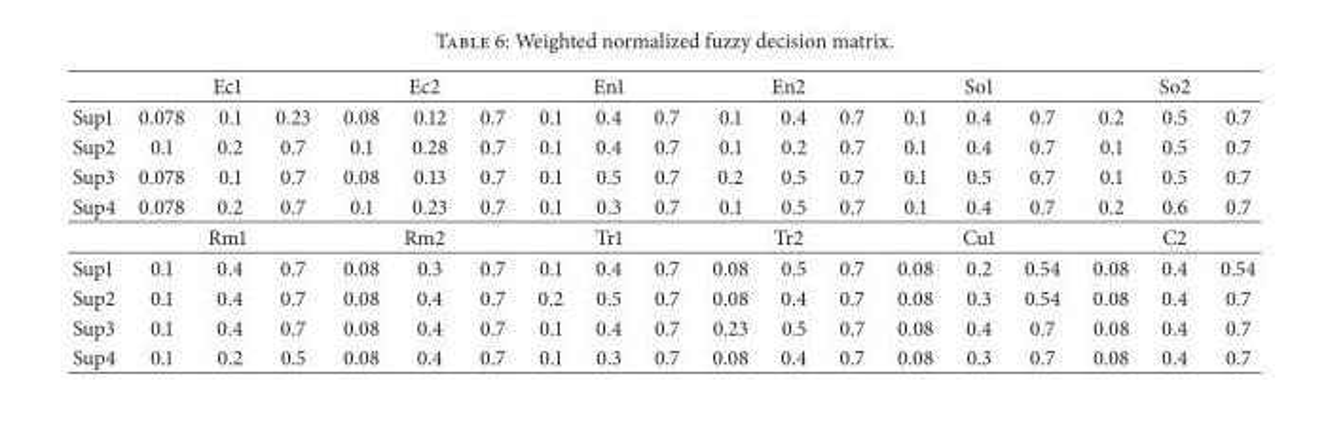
<table><thead><tr><td rowspan="2">Sup1</td><td colspan="3">Ec1</td><td colspan="3">Ec2</td><td colspan="3">En1</td><td colspan="3">En2</td><td colspan="3">So1</td><td colspan="3">So2</td></tr><tr><td>0.078</td><td>0.1</td><td>0.23</td><td>0.08</td><td>0.12</td><td>0.7</td><td>0.1</td><td>0.4</td><td>0.7</td><td>0.1</td><td>0.4</td><td>0.7</td><td>0.1</td><td>0.4</td><td>0.7</td><td>0.2</td><td>0.5</td><td>0.7</td></tr></thead><tbody><tr><td>Sup2</td><td>0.1</td><td>0.2</td><td>0.7</td><td>0.1</td><td>0.28</td><td>0.7</td><td>0.1</td><td>0.4</td><td>0.7</td><td>0.1</td><td>0.2</td><td>0.7</td><td>0.1</td><td>0.4</td><td>0.7</td><td>0.1</td><td>0.5</td><td>0.7</td></tr><tr><td>Sup3</td><td>0.078</td><td>0.1</td><td>0.7</td><td>0.08</td><td>0.13</td><td>0.7</td><td>0.1</td><td>0.5</td><td>0.7</td><td>0.2</td><td>0.5</td><td>0.7</td><td>0.1</td><td>0.5</td><td>0.7</td><td>0.1</td><td>0.5</td><td>0.7</td></tr><tr><td rowspan="2">Sup4</td><td>0.078</td><td>0.2</td><td>0.7</td><td>0.1</td><td>0.23</td><td>0.7</td><td>0.1</td><td>0.3</td><td>0.7</td><td>0.1</td><td>0.5</td><td>0.7</td><td>0.1</td><td>0.4</td><td>0.7</td><td>0.2</td><td>0.6</td><td>0.7</td></tr><tr><td colspan="3">Rm1</td><td colspan="3">Rm2</td><td colspan="3">Tr1</td><td colspan="3">Tr2</td><td colspan="3">Cu1</td><td colspan="3">C2</td></tr><tr><td>Sup1</td><td>0.1</td><td>0.4</td><td>0.7</td><td>0.08</td><td>0.3</td><td>0.7</td><td>0.1</td><td>0.4</td><td>0.7</td><td>0.08</td><td>0.5</td><td>0.7</td><td>0.08</td><td>0.2</td><td>0.54</td><td>0.08</td><td>0.4</td><td>0.54</td></tr><tr><td>Sup2</td><td>0.1</td><td>0.4</td><td>0.7</td><td>0.08</td><td>0.4</td><td>0.7</td><td>0.2</td><td>0.5</td><td>0.7</td><td>0.08</td><td>0.4</td><td>0.7</td><td>0.08</td><td>0.3</td><td>0.54</td><td>0.08</td><td>0.4</td><td>0.7</td></tr><tr><td>Sup3</td><td>0.1</td><td>0.4</td><td>0.7</td><td>0.08</td><td>0.4</td><td>0.7</td><td>0.1</td><td>0.4</td><td>0.7</td><td>0.23</td><td>0.5</td><td>0.7</td><td>0.08</td><td>0.4</td><td>0.7</td><td>0.08</td><td>0.4</td><td>0.7</td></tr><tr><td>Sup4</td><td>0.1</td><td>0.2</td><td>0.5</td><td>0.08</td><td>0.4</td><td>0.7</td><td>0.1</td><td>0.3</td><td>0.7</td><td>0.08</td><td>0.4</td><td>0.7</td><td>0.08</td><td>0.3</td><td>0.7</td><td>0.08</td><td>0.4</td><td>0.7</td></tr></tbody></table>